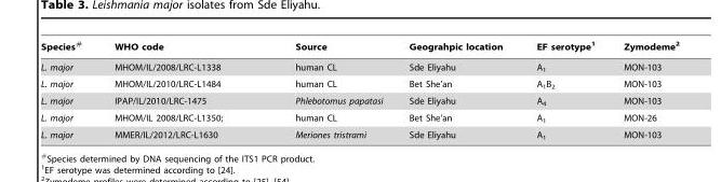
<table><thead><tr><td>Species#</td><td>WHO code</td><td>Source</td><td>Geograhpic location</td><td>EF serotype<sup>1</sup></td><td>Zymodeme<sup>2</sup></td></tr></thead><tbody><tr><td>L. major</td><td>MHOM/IL/2008/LRC-L1338</td><td>human CL</td><td>Sde Eliyahu</td><td>A<sub>1</sub></td><td>MON-103</td></tr><tr><td>L. major</td><td>MHOM/IL/2010/LRC-L1484</td><td>human CL</td><td>Bet She’an</td><td>A<sub>1</sub>B<sub>2</sub></td><td>MON-103</td></tr><tr><td>L. major</td><td>IPAP/IL/2010/LRC-1475</td><td>Phlebotomus papatasi</td><td>Sde Eliyahu</td><td>A<sub>4</sub></td><td>MON-103</td></tr><tr><td>L. major</td><td>MHOM/IL 2008/LRC-L1350;</td><td>human CL</td><td>Bet She’an</td><td>A<sub>1</sub></td><td>MON-26</td></tr><tr><td>L. major</td><td>MMER/IL/2012/LRC-L1630</td><td>Meriones tristrami</td><td>Sde Eliyahu</td><td>A<sub>1</sub></td><td>MON-103</td></tr></tbody></table>